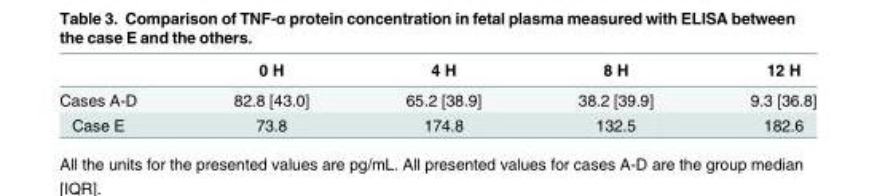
<table><thead><tr><td></td><td>0 H</td><td>4 H</td><td>8 H</td><td>12 H</td></tr></thead><tbody><tr><td>Cases A-D</td><td>82.8 [43.0]</td><td>65.2 [38.9]</td><td>38.2 [39.9]</td><td>9.3 [36.8]</td></tr><tr><td>Case E</td><td>73.8</td><td>174.8</td><td>132.5</td><td>182.6</td></tr></tbody></table>